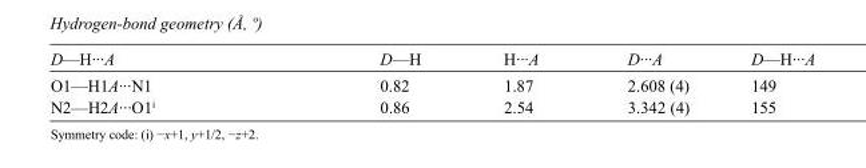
<table><tbody><tr><td>D—H···A</td><td>D—H</td><td>H···A</td><td>D···A</td><td>D—H···A</td></tr><tr><td>O1—H1A···N1</td><td>0.82</td><td>1.87</td><td>2.608 (4)</td><td>149</td></tr><tr><td>N2—H2A···O1<sup>i</sup></td><td>0.86</td><td>2.54</td><td>3.342 (4)</td><td>155</td></tr></tbody></table>